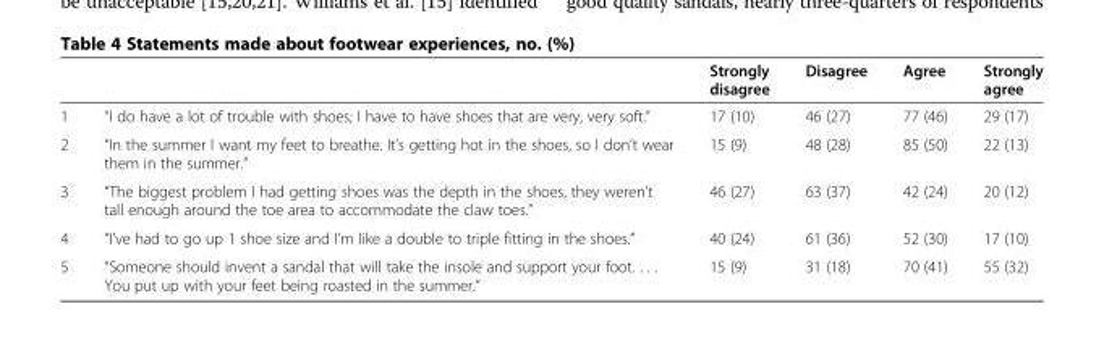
<table><thead><tr><td></td><td></td><td>Strongly disagree</td><td>Disagree</td><td>Agree</td><td>Strongly agree</td></tr></thead><tbody><tr><td>1</td><td>“I do have a lot of trouble with shoes; I have to have shoes that are very, very soft.”</td><td>17 (10)</td><td>46 (27)</td><td>77 (46)</td><td>29 (17)</td></tr><tr><td>2</td><td>“In the summer I want my feet to breathe. It’s getting hot in the shoes, so I don’t wear them in the summer.”</td><td>15 (9)</td><td>48 (28)</td><td>85 (50)</td><td>22 (13)</td></tr><tr><td>3</td><td>“The biggest problem I had getting shoes was the depth in the shoes, they weren’t tall enough around the toe area to accommodate the claw toes.”</td><td>46 (27)</td><td>63 (37)</td><td>42 (24)</td><td>20 (12)</td></tr><tr><td>4</td><td>“I’ve had to go up 1 shoe size and I’m like a double to triple fitting in the shoes.”</td><td>40 (24)</td><td>61 (36)</td><td>52 (30)</td><td>17 (10)</td></tr><tr><td>5</td><td>“Someone should invent a sandal that will take the insole and support your foot. . . . You put up with your feet being roasted in the summer.”</td><td>15 (9)</td><td>31 (18)</td><td>70 (41)</td><td>55 (32)</td></tr></tbody></table>